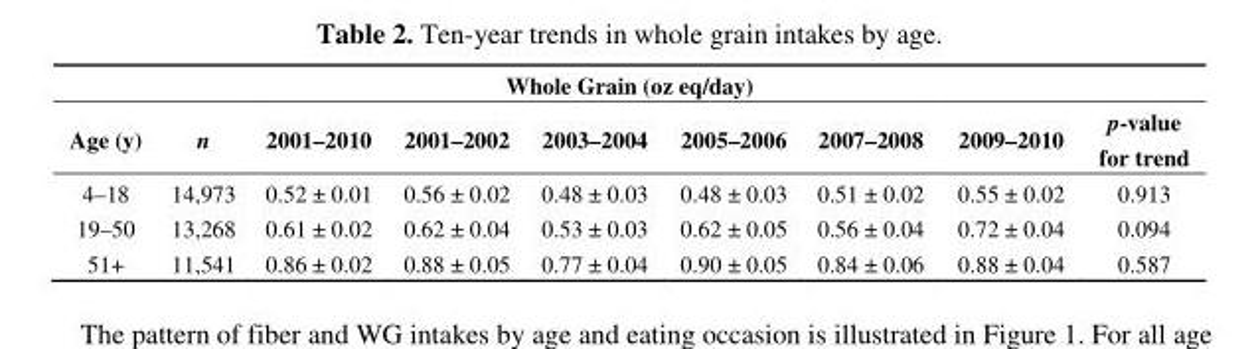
<table><thead><tr><td colspan="9">Whole Grain (oz eq/day)</td></tr><tr><td>Age (y)</td><td>n</td><td>2001–2010</td><td>2001–2002</td><td>2003–2004</td><td>2005–2006</td><td>2007–2008</td><td>2009–2010</td><td>p-value for trend</td></tr></thead><tbody><tr><td>4–18</td><td>14,973</td><td>0.52 ± 0.01</td><td>0.56 ± 0.02</td><td>0.48 ± 0.03</td><td>0.48 ± 0.03</td><td>0.51 ± 0.02</td><td>0.55 ± 0.02</td><td>0.913</td></tr><tr><td>19–50</td><td>13,268</td><td>0.61 ± 0.02</td><td>0.62 ± 0.04</td><td>0.53 ± 0.03</td><td>0.62 ± 0.05</td><td>0.56 ± 0.04</td><td>0.72 ± 0.04</td><td>0.094</td></tr><tr><td>51+</td><td>11,541</td><td>0.86 ± 0.02</td><td>0.88 ± 0.05</td><td>0.77 ± 0.04</td><td>0.90 ± 0.05</td><td>0.84 ± 0.06</td><td>0.88 ± 0.04</td><td>0.587</td></tr></tbody></table>